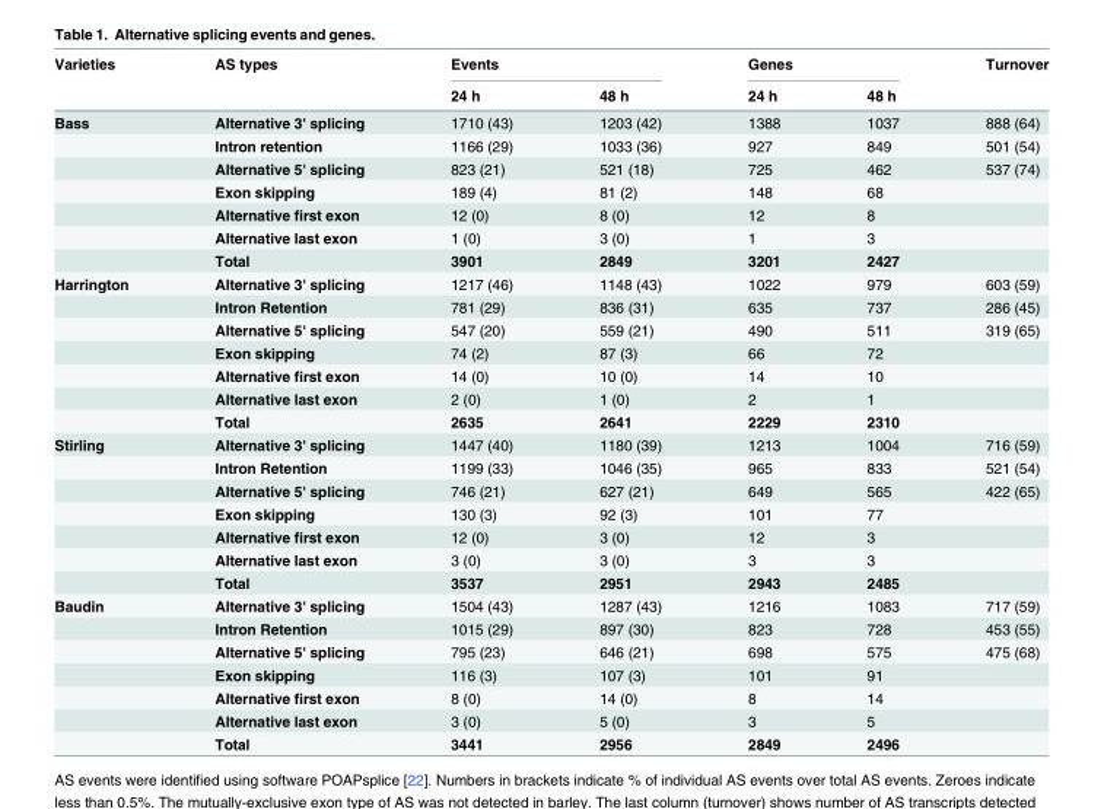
<table><thead><tr><td rowspan="2">Varieties</td><td rowspan="2">AS types</td><td colspan="2">Events</td><td colspan="2">Genes</td><td rowspan="2">Turnover</td></tr><tr><td>24 h</td><td>48 h</td><td>24 h</td><td>48 h</td></tr></thead><tbody><tr><td rowspan="7">Bass</td><td>Alternative 3&#x27; splicing</td><td>1710 (43)</td><td>1203 (42)</td><td>1388</td><td>1037</td><td>888 (64)</td></tr><tr><td>Intron retention</td><td>1166 (29)</td><td>1033 (36)</td><td>927</td><td>849</td><td>501 (54)</td></tr><tr><td>Alternative 5&#x27; splicing</td><td>823 (21)</td><td>521 (18)</td><td>725</td><td>462</td><td>537 (74)</td></tr><tr><td>Exon skipping</td><td>189 (4)</td><td>81 (2)</td><td>148</td><td>68</td><td></td></tr><tr><td>Alternative first exon</td><td>12 (0)</td><td>8 (0)</td><td>12</td><td>8</td><td></td></tr><tr><td>Alternative last exon</td><td>1 (0)</td><td>3 (0)</td><td>1</td><td>3</td><td></td></tr><tr><td>Total</td><td>3901</td><td>2849</td><td>3201</td><td>2427</td><td></td></tr><tr><td rowspan="7">Harrington</td><td>Alternative 3&#x27; splicing</td><td>1217 (46)</td><td>1148 (43)</td><td>1022</td><td>979</td><td>603 (59)</td></tr><tr><td>Intron Retention</td><td>781 (29)</td><td>836 (31)</td><td>635</td><td>737</td><td>286 (45)</td></tr><tr><td>Alternative 5&#x27; splicing</td><td>547 (20)</td><td>559 (21)</td><td>490</td><td>511</td><td>319 (65)</td></tr><tr><td>Exon skipping</td><td>74 (2)</td><td>87 (3)</td><td>66</td><td>72</td><td></td></tr><tr><td>Alternative first exon</td><td>14 (0)</td><td>10 (0)</td><td>14</td><td>10</td><td></td></tr><tr><td>Alternative last exon</td><td>2 (0)</td><td>1 (0)</td><td>2</td><td>1</td><td></td></tr><tr><td>Total</td><td>2635</td><td>2641</td><td>2229</td><td>2310</td><td></td></tr><tr><td rowspan="7">Stirling</td><td>Alternative 3&#x27; splicing</td><td>1447 (40)</td><td>1180 (39)</td><td>1213</td><td>1004</td><td>716 (59)</td></tr><tr><td>Intron Retention</td><td>1199 (33)</td><td>1046 (35)</td><td>965</td><td>833</td><td>521 (54)</td></tr><tr><td>Alternative 5&#x27; splicing</td><td>746 (21)</td><td>627 (21)</td><td>649</td><td>565</td><td>422 (65)</td></tr><tr><td>Exon skipping</td><td>130 (3)</td><td>92 (3)</td><td>101</td><td>77</td><td></td></tr><tr><td>Alternative first exon</td><td>12 (0)</td><td>3 (0)</td><td>12</td><td>3</td><td></td></tr><tr><td>Alternative last exon</td><td>3 (0)</td><td>3 (0)</td><td>3</td><td>3</td><td></td></tr><tr><td>Total</td><td>3537</td><td>2951</td><td>2943</td><td>2485</td><td></td></tr><tr><td rowspan="7">Baudin</td><td>Alternative 3&#x27; splicing</td><td>1504 (43)</td><td>1287 (43)</td><td>1216</td><td>1083</td><td>717 (59)</td></tr><tr><td>Intron Retention</td><td>1015 (29)</td><td>897 (30)</td><td>823</td><td>728</td><td>453 (55)</td></tr><tr><td>Alternative 5&#x27; splicing</td><td>795 (23)</td><td>646 (21)</td><td>698</td><td>575</td><td>475 (68)</td></tr><tr><td>Exon skipping</td><td>116 (3)</td><td>107 (3)</td><td>101</td><td>91</td><td></td></tr><tr><td>Alternative first exon</td><td>8 (0)</td><td>14 (0)</td><td>8</td><td>14</td><td></td></tr><tr><td>Alternative last exon</td><td>3 (0)</td><td>5 (0)</td><td>3</td><td>5</td><td></td></tr><tr><td>Total</td><td>3441</td><td>2956</td><td>2849</td><td>2496</td><td></td></tr></tbody></table>